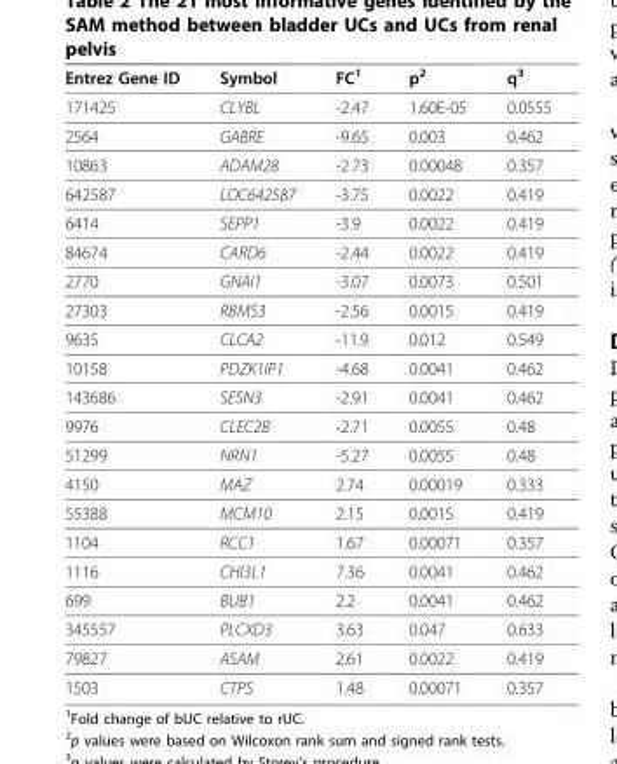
<table><thead><tr><td>Entrez Gene ID</td><td>Symbol</td><td>FC<sup>1</sup></td><td>p<sup>2</sup></td><td>q<sup>3</sup></td></tr></thead><tbody><tr><td>171425</td><td>CLYBL</td><td>-2.47</td><td>1.60E-05</td><td>0.0555</td></tr><tr><td>2564</td><td>GABRE</td><td>-9.65</td><td>0.003</td><td>0.462</td></tr><tr><td>10863</td><td>ADAM28</td><td>-2.73</td><td>0.00048</td><td>0.357</td></tr><tr><td>642587</td><td>LOC642587</td><td>-3.75</td><td>0.0022</td><td>0.419</td></tr><tr><td>6414</td><td>SEPP1</td><td>-3.9</td><td>0.0022</td><td>0.419</td></tr><tr><td>84674</td><td>CARD6</td><td>-2.44</td><td>0.0022</td><td>0.419</td></tr><tr><td>2770</td><td>GNAI1</td><td>-3.07</td><td>0.0073</td><td>0.501</td></tr><tr><td>27303</td><td>RBMS3</td><td>-2.56</td><td>0.0015</td><td>0.419</td></tr><tr><td>9635</td><td>CLCA2</td><td>-11.9</td><td>0.012</td><td>0.549</td></tr><tr><td>10158</td><td>PDZK1IP1</td><td>-4.68</td><td>0.0041</td><td>0.462</td></tr><tr><td>143686</td><td>SESN3</td><td>-2.91</td><td>0.0041</td><td>0.462</td></tr><tr><td>9976</td><td>CLEC2B</td><td>-2.71</td><td>0.0055</td><td>0.48</td></tr><tr><td>51299</td><td>NRN1</td><td>-5.27</td><td>0.0055</td><td>0.48</td></tr><tr><td>4150</td><td>MAZ</td><td>2.74</td><td>0.00019</td><td>0.333</td></tr><tr><td>55388</td><td>MCM10</td><td>2.15</td><td>0.0015</td><td>0.419</td></tr><tr><td>1104</td><td>RCC1</td><td>1.67</td><td>0.00071</td><td>0.357</td></tr><tr><td>1116</td><td>CHI3L1</td><td>7.36</td><td>0.0041</td><td>0.462</td></tr><tr><td>699</td><td>BUB1</td><td>2.2</td><td>0.0041</td><td>0.462</td></tr><tr><td>345557</td><td>PLCXD3</td><td>3.63</td><td>0.047</td><td>0.633</td></tr><tr><td>79827</td><td>ASAM</td><td>2.61</td><td>0.0022</td><td>0.419</td></tr><tr><td>1503</td><td>CTPS</td><td>1.48</td><td>0.00071</td><td>0.357</td></tr></tbody></table>